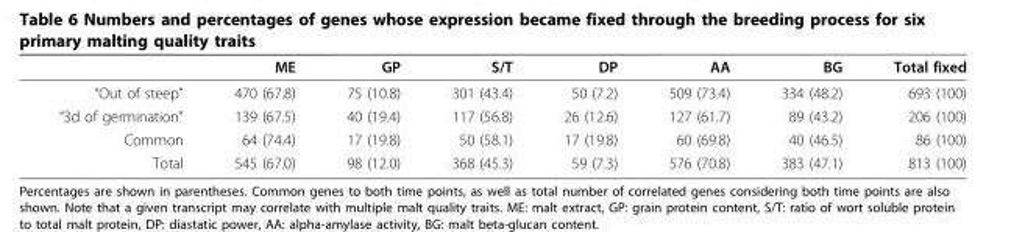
<table><thead><tr><td></td><td>ME</td><td>GP</td><td>S/T</td><td>DP</td><td>AA</td><td>BG</td><td>Total fixed</td></tr></thead><tbody><tr><td>“Out of steep”</td><td>470 (67.8)</td><td>75 (10.8)</td><td>301 (43.4)</td><td>50 (7.2)</td><td>509 (73.4)</td><td>334 (48.2)</td><td>693 (100)</td></tr><tr><td>“3d of germination”</td><td>139 (67.5)</td><td>40 (19.4)</td><td>117 (56.8)</td><td>26 (12.6)</td><td>127 (61.7)</td><td>89 (43.2)</td><td>206 (100)</td></tr><tr><td>Common</td><td>64 (74.4)</td><td>17 (19.8)</td><td>50 (58.1)</td><td>17 (19.8)</td><td>60 (69.8)</td><td>40 (46.5)</td><td>86 (100)</td></tr><tr><td>Total</td><td>545 (67.0)</td><td>98 (12.0)</td><td>368 (45.3)</td><td>59 (7.3)</td><td>576 (70.8)</td><td>383 (47.1)</td><td>813 (100)</td></tr></tbody></table>